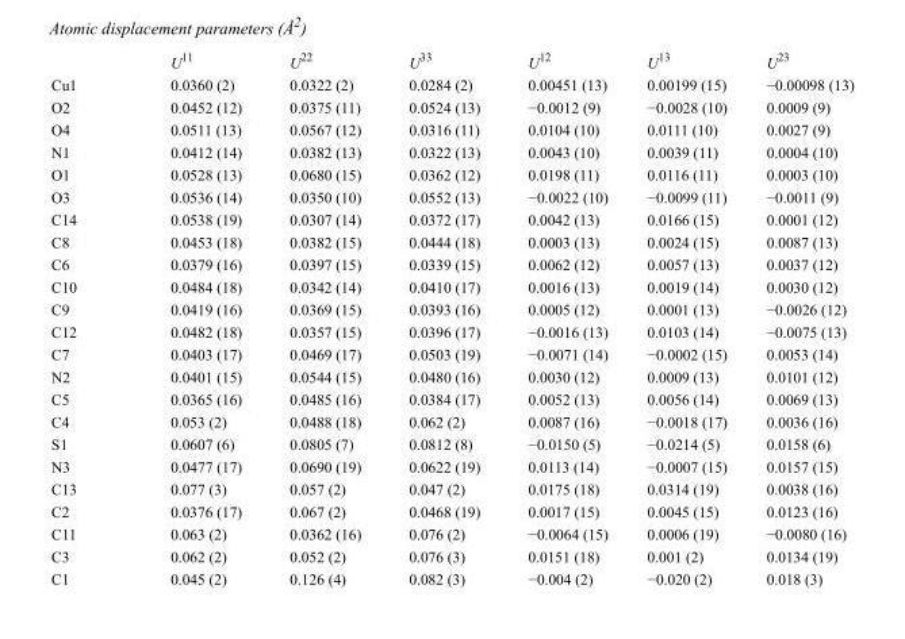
<table><thead><tr><td></td><td>U<sup>11</sup></td><td>U<sup>22</sup></td><td>U<sup>33</sup></td><td>U<sup>12</sup></td><td>U<sup>13</sup></td><td>U<sup>23</sup></td></tr></thead><tbody><tr><td>Cu1</td><td>0.0360 (2)</td><td>0.0322 (2)</td><td>0.0284 (2)</td><td>0.00451 (13)</td><td>0.00199 (15)</td><td>−0.00098 (13)</td></tr><tr><td>O2</td><td>0.0452 (12)</td><td>0.0375 (11)</td><td>0.0524 (13)</td><td>−0.0012 (9)</td><td>−0.0028 (10)</td><td>0.0009 (9)</td></tr><tr><td>O4</td><td>0.0511 (13)</td><td>0.0567 (12)</td><td>0.0316 (11)</td><td>0.0104 (10)</td><td>0.0111 (10)</td><td>0.0027 (9)</td></tr><tr><td>N1</td><td>0.0412 (14)</td><td>0.0382 (13)</td><td>0.0322 (13)</td><td>0.0043 (10)</td><td>0.0039 (11)</td><td>0.0004 (10)</td></tr><tr><td>O1</td><td>0.0528 (13)</td><td>0.0680 (15)</td><td>0.0362 (12)</td><td>0.0198 (11)</td><td>0.0116 (11)</td><td>0.0003 (10)</td></tr><tr><td>O3</td><td>0.0536 (14)</td><td>0.0350 (10)</td><td>0.0552 (13)</td><td>−0.0022 (10)</td><td>−0.0099 (11)</td><td>−0.0011 (9)</td></tr><tr><td>C14</td><td>0.0538 (19)</td><td>0.0307 (14)</td><td>0.0372 (17)</td><td>0.0042 (13)</td><td>0.0166 (15)</td><td>0.0001 (12)</td></tr><tr><td>C8</td><td>0.0453 (18)</td><td>0.0382 (15)</td><td>0.0444 (18)</td><td>0.0003 (13)</td><td>0.0024 (15)</td><td>0.0087 (13)</td></tr><tr><td>C6</td><td>0.0379 (16)</td><td>0.0397 (15)</td><td>0.0339 (15)</td><td>0.0062 (12)</td><td>0.0057 (13)</td><td>0.0037 (12)</td></tr><tr><td>C10</td><td>0.0484 (18)</td><td>0.0342 (14)</td><td>0.0410 (17)</td><td>0.0016 (13)</td><td>0.0019 (14)</td><td>0.0030 (12)</td></tr><tr><td>C9</td><td>0.0419 (16)</td><td>0.0369 (15)</td><td>0.0393 (16)</td><td>0.0005 (12)</td><td>0.0001 (13)</td><td>−0.0026 (12)</td></tr><tr><td>C12</td><td>0.0482 (18)</td><td>0.0357 (15)</td><td>0.0396 (17)</td><td>−0.0016 (13)</td><td>0.0103 (14)</td><td>−0.0075 (13)</td></tr><tr><td>C7</td><td>0.0403 (17)</td><td>0.0469 (17)</td><td>0.0503 (19)</td><td>−0.0071 (14)</td><td>−0.0002 (15)</td><td>0.0053 (14)</td></tr><tr><td>N2</td><td>0.0401 (15)</td><td>0.0544 (15)</td><td>0.0480 (16)</td><td>0.0030 (12)</td><td>0.0009 (13)</td><td>0.0101 (12)</td></tr><tr><td>C5</td><td>0.0365 (16)</td><td>0.0485 (16)</td><td>0.0384 (17)</td><td>0.0052 (13)</td><td>0.0056 (14)</td><td>0.0069 (13)</td></tr><tr><td>C4</td><td>0.053 (2)</td><td>0.0488 (18)</td><td>0.062 (2)</td><td>0.0087 (16)</td><td>−0.0018 (17)</td><td>0.0036 (16)</td></tr><tr><td>S1</td><td>0.0607 (6)</td><td>0.0805 (7)</td><td>0.0812 (8)</td><td>−0.0150 (5)</td><td>−0.0214 (5)</td><td>0.0158 (6)</td></tr><tr><td>N3</td><td>0.0477 (17)</td><td>0.0690 (19)</td><td>0.0622 (19)</td><td>0.0113 (14)</td><td>−0.0007 (15)</td><td>0.0157 (15)</td></tr><tr><td>C13</td><td>0.077 (3)</td><td>0.057 (2)</td><td>0.047 (2)</td><td>0.0175 (18)</td><td>0.0314 (19)</td><td>0.0038 (16)</td></tr><tr><td>C2</td><td>0.0376 (17)</td><td>0.067 (2)</td><td>0.0468 (19)</td><td>0.0017 (15)</td><td>0.0045 (15)</td><td>0.0123 (16)</td></tr><tr><td>C11</td><td>0.063 (2)</td><td>0.0362 (16)</td><td>0.076 (2)</td><td>−0.0064 (15)</td><td>0.0006 (19)</td><td>−0.0080 (16)</td></tr><tr><td>C3</td><td>0.062 (2)</td><td>0.052 (2)</td><td>0.076 (3)</td><td>0.0151 (18)</td><td>0.001 (2)</td><td>0.0134 (19)</td></tr><tr><td>C1</td><td>0.045 (2)</td><td>0.126 (4)</td><td>0.082 (3)</td><td>−0.004 (2)</td><td>−0.020 (2)</td><td>0.018 (3)</td></tr></tbody></table>